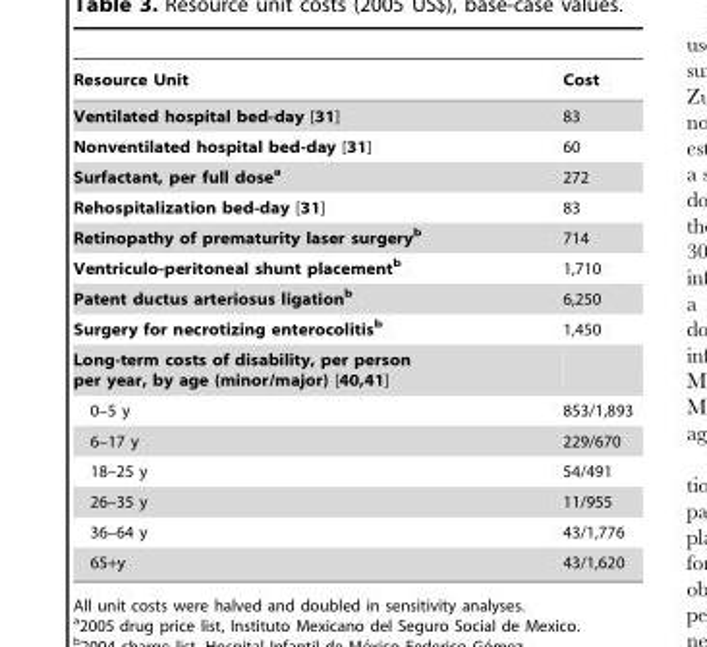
<table><thead><tr><td>Resource Unit</td><td>Cost</td></tr></thead><tbody><tr><td>Ventilated hospital bed-day [31]</td><td>83</td></tr><tr><td>Nonventilated hospital bed-day [31]</td><td>60</td></tr><tr><td>Surfactant, per full dosea</td><td>272</td></tr><tr><td>Rehospitalization bed-day [31]</td><td>83</td></tr><tr><td>Retinopathy of prematurity laser surgeryb</td><td>714</td></tr><tr><td>Ventriculo-peritoneal shunt placementb</td><td>1,710</td></tr><tr><td>Patent ductus arteriosus ligationb</td><td>6,250</td></tr><tr><td>Surgery for necrotizing enterocolitisb</td><td>1,450</td></tr><tr><td colspan="2">Long-term costs of disability, per person per year, by age (minor/major) [40,41]</td></tr><tr><td>0–5 y</td><td>853/1,893</td></tr><tr><td>6–17 y</td><td>229/670</td></tr><tr><td>18–25 y</td><td>54/491</td></tr><tr><td>26–35 y</td><td>11/955</td></tr><tr><td>36–64 y</td><td>43/1,776</td></tr><tr><td>65+y</td><td>43/1,620</td></tr></tbody></table>